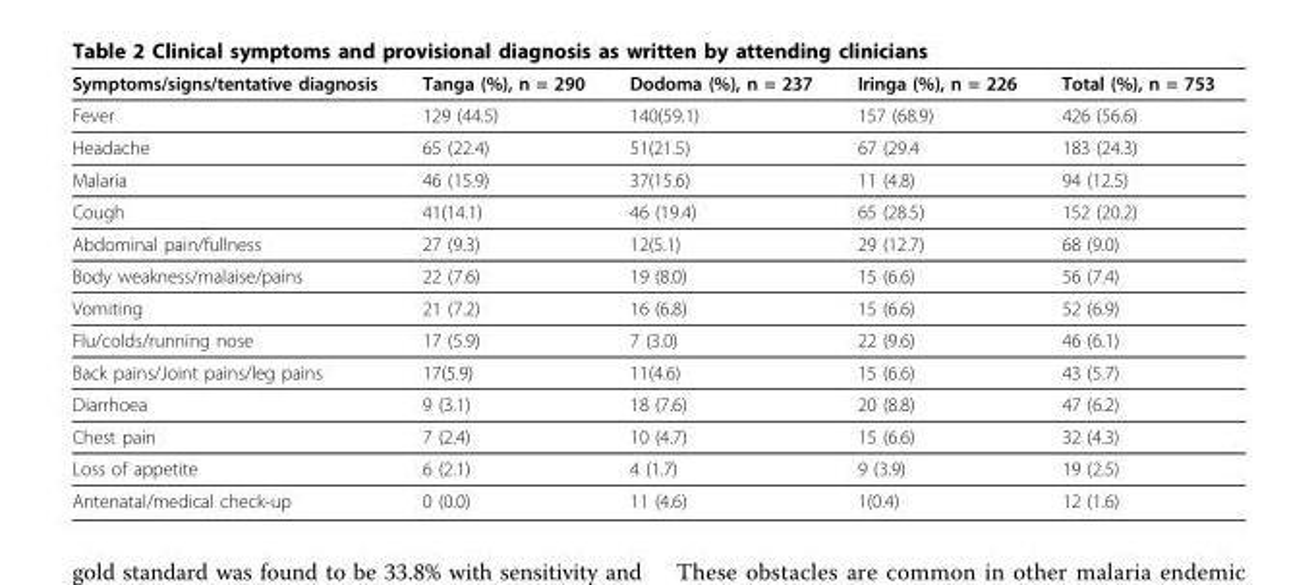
<table><thead><tr><td>Symptoms/signs/tentative diagnosis</td><td>Tanga (%), n = 290</td><td>Dodoma (%), n = 237</td><td>Iringa (%), n = 226</td><td>Total (%), n = 753</td></tr></thead><tbody><tr><td>Fever</td><td>129 (44.5)</td><td>140(59.1)</td><td>157 (68.9)</td><td>426 (56.6)</td></tr><tr><td>Headache</td><td>65 (22.4)</td><td>51(21.5)</td><td>67 (29.4</td><td>183 (24.3)</td></tr><tr><td>Malaria</td><td>46 (15.9)</td><td>37(15.6)</td><td>11 (4.8)</td><td>94 (12.5)</td></tr><tr><td>Cough</td><td>41(14.1)</td><td>46 (19.4)</td><td>65 (28.5)</td><td>152 (20.2)</td></tr><tr><td>Abdominal pain/fullness</td><td>27 (9.3)</td><td>12(5.1)</td><td>29 (12.7)</td><td>68 (9.0)</td></tr><tr><td>Body weakness/malaise/pains</td><td>22 (7.6)</td><td>19 (8.0)</td><td>15 (6.6)</td><td>56 (7.4)</td></tr><tr><td>Vomiting</td><td>21 (7.2)</td><td>16 (6.8)</td><td>15 (6.6)</td><td>52 (6.9)</td></tr><tr><td>Flu/colds/running nose</td><td>17 (5.9)</td><td>7 (3.0)</td><td>22 (9.6)</td><td>46 (6.1)</td></tr><tr><td>Back pains/Joint pains/leg pains</td><td>17(5.9)</td><td>11(4.6)</td><td>15 (6.6)</td><td>43 (5.7)</td></tr><tr><td>Diarrhoea</td><td>9 (3.1)</td><td>18 (7.6)</td><td>20 (8.8)</td><td>47 (6.2)</td></tr><tr><td>Chest pain</td><td>7 (2.4)</td><td>10 (4.7)</td><td>15 (6.6)</td><td>32 (4.3)</td></tr><tr><td>Loss of appetite</td><td>6 (2.1)</td><td>4 (1.7)</td><td>9 (3.9)</td><td>19 (2.5)</td></tr><tr><td>Antenatal/medical check-up</td><td>0 (0.0)</td><td>11 (4.6)</td><td>1(0.4)</td><td>12 (1.6)</td></tr></tbody></table>